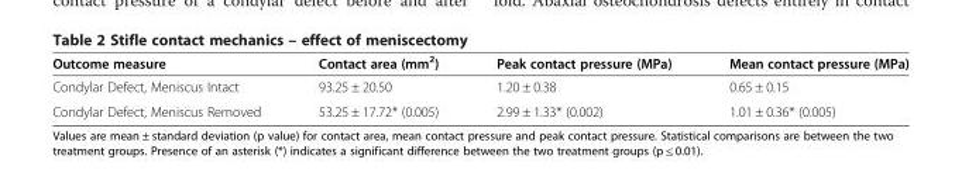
<table><thead><tr><td>Outcome measure</td><td>Contact area (mm<sup>2</sup>)</td><td>Peak contact pressure (MPa)</td><td>Mean contact pressure (MPa)</td></tr></thead><tbody><tr><td>Condylar Defect, Meniscus Intact</td><td>93.25 ± 20.50</td><td>1.20 ± 0.38</td><td>0.65 ± 0.15</td></tr><tr><td>Condylar Defect, Meniscus Removed</td><td>53.25 ± 17.72* (0.005)</td><td>2.99 ± 1.33* (0.002)</td><td>1.01 ± 0.36* (0.005)</td></tr></tbody></table>